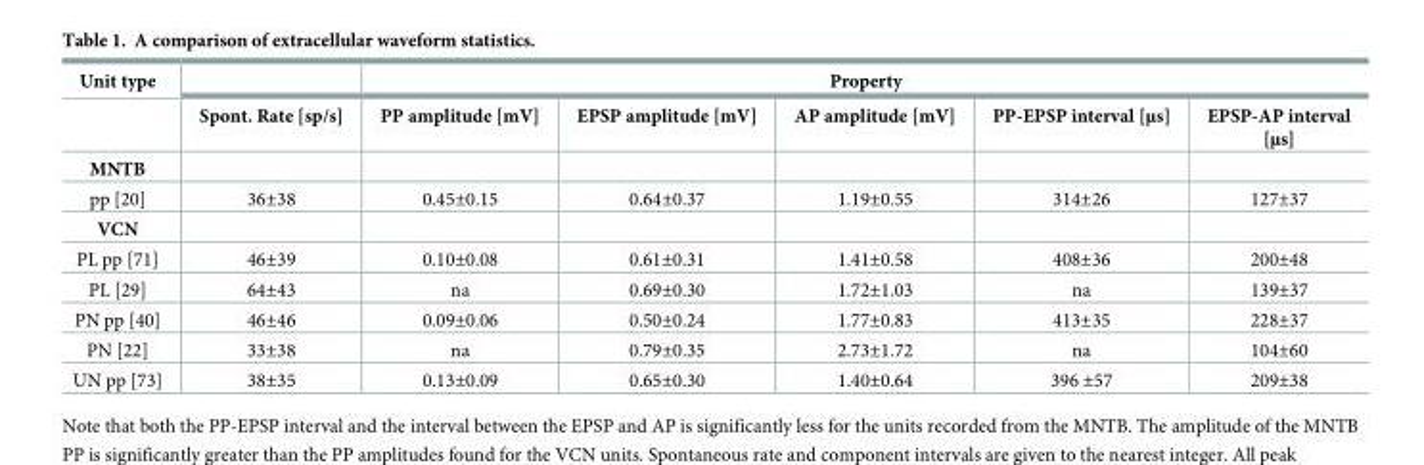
<table><thead><tr><td rowspan="2">Unit type</td><td rowspan="2">Spont. Rate [sp/s]</td><td colspan="5">Property</td></tr><tr><td>PP amplitude [mV]</td><td>EPSP amplitude [mV]</td><td>AP amplitude [mV]</td><td>PP-EPSP interval [μs]</td><td>EPSP-AP interval [μs]</td></tr></thead><tbody><tr><td colspan="7">MNTB</td></tr><tr><td>pp [20]</td><td>36±38</td><td>0.45±0.15</td><td>0.64±0.37</td><td>1.19±0.55</td><td>314±26</td><td>127±37</td></tr><tr><td colspan="7">VCN</td></tr><tr><td>PL pp [71]</td><td>46±39</td><td>0.10±0.08</td><td>0.61±0.31</td><td>1.41±0.58</td><td>408±36</td><td>200±48</td></tr><tr><td>PL [29]</td><td>64±43</td><td>na</td><td>0.69±0.30</td><td>1.72±1.03</td><td>na</td><td>139±37</td></tr><tr><td>PN pp [40]</td><td>46±46</td><td>0.09±0.06</td><td>0.50±0.24</td><td>1.77±0.83</td><td>413±35</td><td>228±37</td></tr><tr><td>PN [22]</td><td>33±38</td><td>na</td><td>0.79±0.35</td><td>2.73±1.72</td><td>na</td><td>104±60</td></tr><tr><td>UN pp [73]</td><td>38±35</td><td>0.13±0.09</td><td>0.65±0.30</td><td>1.40±0.64</td><td>396 ±57</td><td>209±38</td></tr></tbody></table>